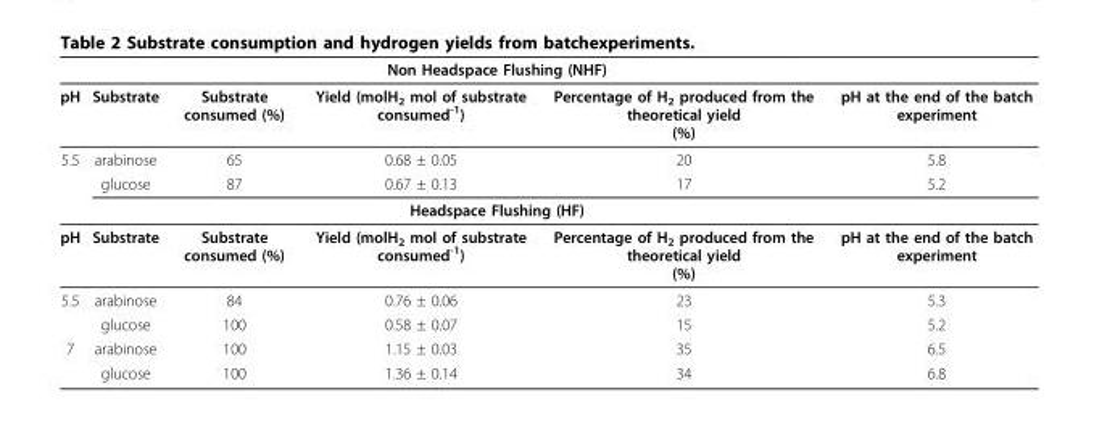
<table><thead><tr><td rowspan="2">pH</td><td rowspan="2">Substrate</td><td colspan="3">Non Headspace Flushing (NHF)</td><td rowspan="2">pH at the end of the batch experiment</td></tr><tr><td>Substrate consumed (%)</td><td>Yield (molH<sub>2</sub> mol of substrate consumed<sup>-1</sup>)</td><td>Percentage of H<sub>2</sub> produced from the theoretical yield (%)</td></tr></thead><tbody><tr><td rowspan="3">5.5</td><td>arabinose</td><td>65</td><td>0.68 ± 0.05</td><td>20</td><td>5.8</td></tr><tr><td>glucose</td><td>87</td><td>0.67 ± 0.13</td><td>17</td><td>5.2</td></tr><tr><td></td><td colspan="3">Headspace Flushing (HF)</td><td></td></tr><tr><td>pH</td><td>Substrate</td><td>Substrate consumed (%)</td><td>Yield (molH<sub>2</sub> mol of substrate consumed<sup>-1</sup>)</td><td>Percentage of H<sub>2</sub> produced from the theoretical yield (%)</td><td>pH at the end of the batch experiment</td></tr><tr><td rowspan="2">5.5</td><td>arabinose</td><td>84</td><td>0.76 ± 0.06</td><td>23</td><td>5.3</td></tr><tr><td>glucose</td><td>100</td><td>0.58 ± 0.07</td><td>15</td><td>5.2</td></tr><tr><td rowspan="2">7</td><td>arabinose</td><td>100</td><td>1.15 ± 0.03</td><td>35</td><td>6.5</td></tr><tr><td>glucose</td><td>100</td><td>1.36 ± 0.14</td><td>34</td><td>6.8</td></tr></tbody></table>